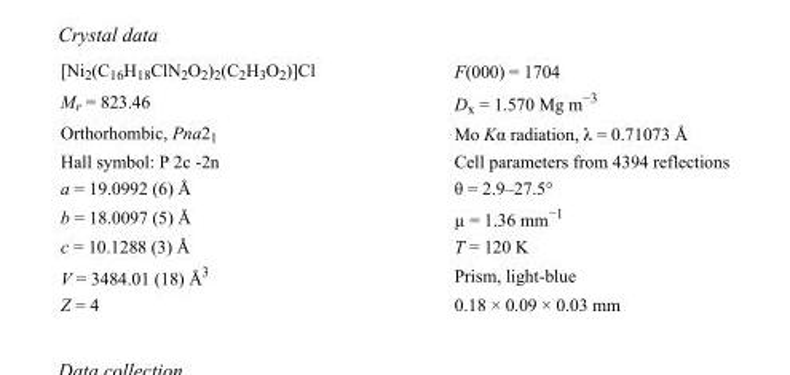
<table><tbody><tr><td>[Ni<sub>2</sub>(C<sub>16</sub>H<sub>18</sub>ClN<sub>2</sub>O<sub>2</sub>)<sub>2</sub>(C<sub>2</sub>H<sub>3</sub>O<sub>2</sub>)]Cl</td><td>F(000) = 1704</td></tr><tr><td>M<sub>r</sub> = 823.46</td><td>D<sub>x</sub> = 1.570 Mg m<sup>−3</sup></td></tr><tr><td>Orthorhombic, Pna2<sub>1</sub></td><td>Mo Kα radiation, λ = 0.71073 Å</td></tr><tr><td>Hall symbol: P 2c -2n</td><td>Cell parameters from 4394 reflections</td></tr><tr><td>a = 19.0992 (6) Å</td><td>θ = 2.9–27.5°</td></tr><tr><td>b = 18.0097 (5) Å</td><td>µ = 1.36 mm<sup>−1</sup></td></tr><tr><td>c = 10.1288 (3) Å</td><td>T = 120 K</td></tr><tr><td>V = 3484.01 (18) Å<sup>3</sup></td><td>Prism, light-blue</td></tr><tr><td>Z = 4</td><td>0.18 × 0.09 × 0.03 mm</td></tr></tbody></table>